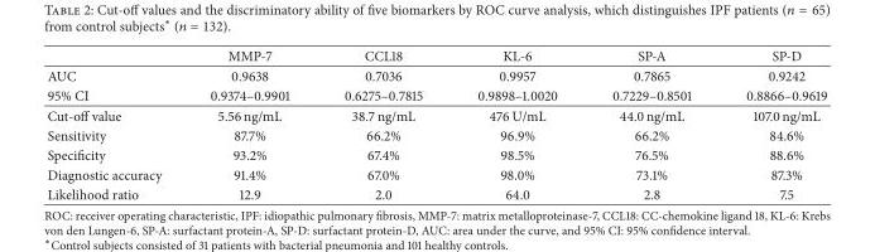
<table><thead><tr><td></td><td>MMP-7</td><td>CCL18</td><td>KL-6</td><td>SP-A</td><td>SP-D</td></tr></thead><tbody><tr><td>AUC</td><td>0.9638</td><td>0.7036</td><td>0.9957</td><td>0.7865</td><td>0.9242</td></tr><tr><td>95% CI</td><td>0.9374–0.9901</td><td>0.6275–0.7815</td><td>0.9898–1.0020</td><td>0.7229–0.8501</td><td>0.8866–0.9619</td></tr><tr><td>Cut-off value</td><td>5.56 ng/mL</td><td>38.7 ng/mL</td><td>476 U/mL</td><td>44.0 ng/mL</td><td>107.0 ng/mL</td></tr><tr><td>Sensitivity</td><td>87.7%</td><td>66.2%</td><td>96.9%</td><td>66.2%</td><td>84.6%</td></tr><tr><td>Specificity</td><td>93.2%</td><td>67.4%</td><td>98.5%</td><td>76.5%</td><td>88.6%</td></tr><tr><td>Diagnostic accuracy</td><td>91.4%</td><td>67.0%</td><td>98.0%</td><td>73.1%</td><td>87.3%</td></tr><tr><td>Likelihood ratio</td><td>12.9</td><td>2.0</td><td>64.0</td><td>2.8</td><td>7.5</td></tr></tbody></table>